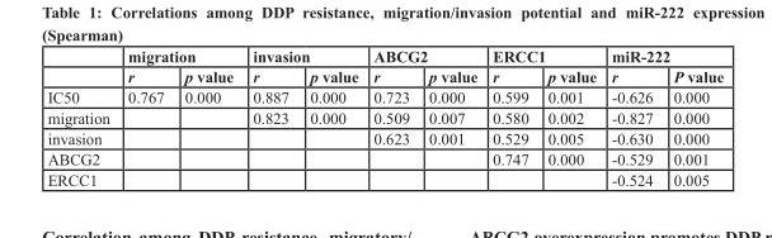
<table><thead><tr><td rowspan="2"></td><td colspan="2">migration</td><td colspan="2">invasion</td><td colspan="2">ABCG2</td><td colspan="2">ERCC1</td><td colspan="2">miR-222</td></tr><tr><td>r</td><td>p value</td><td>r</td><td>p value</td><td>r</td><td>p value</td><td>r</td><td>p value</td><td>r</td><td>P value</td></tr></thead><tbody><tr><td>IC50</td><td>0.767</td><td>0.000</td><td>0.887</td><td>0.000</td><td>0.723</td><td>0.000</td><td>0.599</td><td>0.001</td><td>-0.626</td><td>0.000</td></tr><tr><td>migration</td><td></td><td></td><td>0.823</td><td>0.000</td><td>0.509</td><td>0.007</td><td>0.580</td><td>0.002</td><td>-0.827</td><td>0.000</td></tr><tr><td>invasion</td><td></td><td></td><td></td><td></td><td>0.623</td><td>0.001</td><td>0.529</td><td>0.005</td><td>-0.630</td><td>0.000</td></tr><tr><td>ABCG2</td><td></td><td></td><td></td><td></td><td></td><td></td><td>0.747</td><td>0.000</td><td>-0.529</td><td>0.001</td></tr><tr><td>ERCC1</td><td></td><td></td><td></td><td></td><td></td><td></td><td></td><td></td><td>-0.524</td><td>0.005</td></tr></tbody></table>